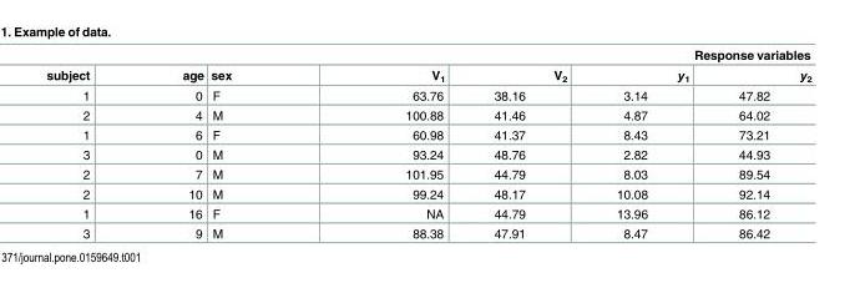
<table><thead><tr><td colspan="7">Response variables</td></tr><tr><td>subject</td><td>age</td><td>sex</td><td>V<sub>1</sub></td><td>V<sub>2</sub></td><td>y<sub>1</sub></td><td>y<sub>2</sub></td></tr></thead><tbody><tr><td>1</td><td>0</td><td>F</td><td>63.76</td><td>38.16</td><td>3.14</td><td>47.82</td></tr><tr><td>2</td><td>4</td><td>M</td><td>100.88</td><td>41.46</td><td>4.87</td><td>64.02</td></tr><tr><td>1</td><td>6</td><td>F</td><td>60.98</td><td>41.37</td><td>8.43</td><td>73.21</td></tr><tr><td>3</td><td>0</td><td>M</td><td>93.24</td><td>48.76</td><td>2.82</td><td>44.93</td></tr><tr><td>2</td><td>7</td><td>M</td><td>101.95</td><td>44.79</td><td>8.03</td><td>89.54</td></tr><tr><td>2</td><td>10</td><td>M</td><td>99.24</td><td>48.17</td><td>10.08</td><td>92.14</td></tr><tr><td>1</td><td>16</td><td>F</td><td>NA</td><td>44.79</td><td>13.96</td><td>86.12</td></tr><tr><td>3</td><td>9</td><td>M</td><td>88.38</td><td>47.91</td><td>8.47</td><td>86.42</td></tr></tbody></table>